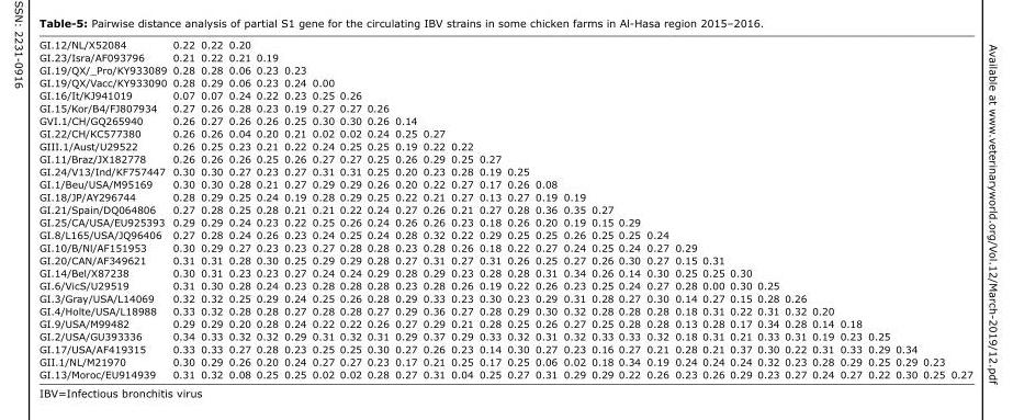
<table><tbody><tr><td>GI.12/NL/X52084</td><td>0.22</td><td>0.22</td><td>0.20</td><td></td><td></td><td></td><td></td><td></td><td></td><td></td><td></td><td></td><td></td><td></td><td></td><td></td><td></td><td></td><td></td><td></td><td></td><td></td><td></td><td></td><td></td><td></td><td></td><td></td><td></td></tr><tr><td>GI.23/Isra/AF093796</td><td>0.21</td><td>0.22</td><td>0.21</td><td>0.19</td><td></td><td></td><td></td><td></td><td></td><td></td><td></td><td></td><td></td><td></td><td></td><td></td><td></td><td></td><td></td><td></td><td></td><td></td><td></td><td></td><td></td><td></td><td></td><td></td><td></td></tr><tr><td>GI.19/QX/_Pro/KY933089</td><td>0.28</td><td>0.28</td><td>0.06</td><td>0.23</td><td>0.23</td><td></td><td></td><td></td><td></td><td></td><td></td><td></td><td></td><td></td><td></td><td></td><td></td><td></td><td></td><td></td><td></td><td></td><td></td><td></td><td></td><td></td><td></td><td></td><td></td></tr><tr><td>GI.19/QX/Vacc/KY933090</td><td>0.28</td><td>0.29</td><td>0.06</td><td>0.23</td><td>0.24</td><td>0.00</td><td></td><td></td><td></td><td></td><td></td><td></td><td></td><td></td><td></td><td></td><td></td><td></td><td></td><td></td><td></td><td></td><td></td><td></td><td></td><td></td><td></td><td></td><td></td></tr><tr><td>GI.16/It/KJ941019</td><td>0.07</td><td>0.07</td><td>0.24</td><td>0.22</td><td>0.23</td><td>0.25</td><td>0.26</td><td></td><td></td><td></td><td></td><td></td><td></td><td></td><td></td><td></td><td></td><td></td><td></td><td></td><td></td><td></td><td></td><td></td><td></td><td></td><td></td><td></td><td></td></tr><tr><td>GI.15/Kor/B4/FJ807934</td><td>0.27</td><td>0.26</td><td>0.28</td><td>0.23</td><td>0.19</td><td>0.27</td><td>0.27</td><td>0.26</td><td></td><td></td><td></td><td></td><td></td><td></td><td></td><td></td><td></td><td></td><td></td><td></td><td></td><td></td><td></td><td></td><td></td><td></td><td></td><td></td><td></td></tr><tr><td>GVI.1/CH/GQ265940</td><td>0.26</td><td>0.27</td><td>0.26</td><td>0.26</td><td>0.25</td><td>0.30</td><td>0.30</td><td>0.26</td><td>0.14</td><td></td><td></td><td></td><td></td><td></td><td></td><td></td><td></td><td></td><td></td><td></td><td></td><td></td><td></td><td></td><td></td><td></td><td></td><td></td><td></td></tr><tr><td>GI.22/CH/KC577380</td><td>0.26</td><td>0.26</td><td>0.04</td><td>0.20</td><td>0.21</td><td>0.02</td><td>0.02</td><td>0.24</td><td>0.25</td><td>0.27</td><td></td><td></td><td></td><td></td><td></td><td></td><td></td><td></td><td></td><td></td><td></td><td></td><td></td><td></td><td></td><td></td><td></td><td></td><td></td></tr><tr><td>GIII.1/Aust/U29522</td><td>0.26</td><td>0.25</td><td>0.23</td><td>0.21</td><td>0.22</td><td>0.24</td><td>0.25</td><td>0.25</td><td>0.19</td><td>0.22</td><td>0.22</td><td></td><td></td><td></td><td></td><td></td><td></td><td></td><td></td><td></td><td></td><td></td><td></td><td></td><td></td><td></td><td></td><td></td><td></td></tr><tr><td>GI.11/Braz/JX182778</td><td>0.26</td><td>0.26</td><td>0.26</td><td>0.25</td><td>0.26</td><td>0.27</td><td>0.27</td><td>0.25</td><td>0.26</td><td>0.29</td><td>0.25</td><td>0.27</td><td></td><td></td><td></td><td></td><td></td><td></td><td></td><td></td><td></td><td></td><td></td><td></td><td></td><td></td><td></td><td></td><td></td></tr><tr><td>GI.24/V13/Ind/KF757447</td><td>0.30</td><td>0.30</td><td>0.27</td><td>0.23</td><td>0.27</td><td>0.31</td><td>0.31</td><td>0.25</td><td>0.20</td><td>0.23</td><td>0.28</td><td>0.19</td><td>0.25</td><td></td><td></td><td></td><td></td><td></td><td></td><td></td><td></td><td></td><td></td><td></td><td></td><td></td><td></td><td></td><td></td></tr><tr><td>GI.1/Beu/USA/M95169</td><td>0.30</td><td>0.30</td><td>0.28</td><td>0.21</td><td>0.27</td><td>0.29</td><td>0.29</td><td>0.26</td><td>0.20</td><td>0.22</td><td>0.27</td><td>0.17</td><td>0.26</td><td>0.08</td><td></td><td></td><td></td><td></td><td></td><td></td><td></td><td></td><td></td><td></td><td></td><td></td><td></td><td></td><td></td></tr><tr><td>GI.18/JP/AY296744</td><td>0.28</td><td>0.29</td><td>0.25</td><td>0.24</td><td>0.19</td><td>0.28</td><td>0.29</td><td>0.25</td><td>0.22</td><td>0.21</td><td>0.27</td><td>0.13</td><td>0.27</td><td>0.19</td><td>0.19</td><td></td><td></td><td></td><td></td><td></td><td></td><td></td><td></td><td></td><td></td><td></td><td></td><td></td><td></td></tr><tr><td>GI.21/Spain/DQ064806</td><td>0.27</td><td>0.28</td><td>0.25</td><td>0.28</td><td>0.21</td><td>0.21</td><td>0.22</td><td>0.24</td><td>0.27</td><td>0.26</td><td>0.21</td><td>0.27</td><td>0.28</td><td>0.36</td><td>0.35</td><td>0.27</td><td></td><td></td><td></td><td></td><td></td><td></td><td></td><td></td><td></td><td></td><td></td><td></td><td></td></tr><tr><td>GI.25/CA/USA/EU925393</td><td>0.29</td><td>0.29</td><td>0.24</td><td>0.23</td><td>0.22</td><td>0.25</td><td>0.26</td><td>0.24</td><td>0.26</td><td>0.26</td><td>0.23</td><td>0.18</td><td>0.26</td><td>0.20</td><td>0.19</td><td>0.15</td><td>0.29</td><td></td><td></td><td></td><td></td><td></td><td></td><td></td><td></td><td></td><td></td><td></td><td></td></tr><tr><td>GI.8/L165/USA/JQ96406</td><td>0.27</td><td>0.28</td><td>0.24</td><td>0.26</td><td>0.23</td><td>0.24</td><td>0.25</td><td>0.24</td><td>0.28</td><td>0.32</td><td>0.22</td><td>0.29</td><td>0.25</td><td>0.25</td><td>0.26</td><td>0.25</td><td>0.25</td><td>0.24</td><td></td><td></td><td></td><td></td><td></td><td></td><td></td><td></td><td></td><td></td><td></td></tr><tr><td>GI.10/B/Nl/AF151953</td><td>0.30</td><td>0.29</td><td>0.27</td><td>0.23</td><td>0.23</td><td>0.27</td><td>0.28</td><td>0.28</td><td>0.23</td><td>0.28</td><td>0.26</td><td>0.18</td><td>0.22</td><td>0.27</td><td>0.24</td><td>0.25</td><td>0.24</td><td>0.27</td><td>0.29</td><td></td><td></td><td></td><td></td><td></td><td></td><td></td><td></td><td></td><td></td></tr><tr><td>GI.20/CAN/AF349621</td><td>0.31</td><td>0.31</td><td>0.28</td><td>0.30</td><td>0.25</td><td>0.29</td><td>0.29</td><td>0.28</td><td>0.27</td><td>0.31</td><td>0.27</td><td>0.31</td><td>0.26</td><td>0.25</td><td>0.27</td><td>0.26</td><td>0.30</td><td>0.27</td><td>0.15</td><td>0.31</td><td></td><td></td><td></td><td></td><td></td><td></td><td></td><td></td><td></td></tr><tr><td>GI.14/Bel/X87238</td><td>0.30</td><td>0.31</td><td>0.23</td><td>0.23</td><td>0.27</td><td>0.24</td><td>0.24</td><td>0.29</td><td>0.28</td><td>0.29</td><td>0.23</td><td>0.28</td><td>0.28</td><td>0.31</td><td>0.34</td><td>0.26</td><td>0.14</td><td>0.30</td><td>0.25</td><td>0.25</td><td>0.30</td><td></td><td></td><td></td><td></td><td></td><td></td><td></td><td></td></tr><tr><td>GI.6/VicS/U29519</td><td>0.31</td><td>0.30</td><td>0.28</td><td>0.24</td><td>0.23</td><td>0.28</td><td>0.28</td><td>0.28</td><td>0.23</td><td>0.28</td><td>0.26</td><td>0.19</td><td>0.22</td><td>0.26</td><td>0.23</td><td>0.25</td><td>0.24</td><td>0.27</td><td>0.28</td><td>0.00</td><td>0.30</td><td>0.25</td><td></td><td></td><td></td><td></td><td></td><td></td><td></td></tr><tr><td>GI.3/Gray/USA/L14069</td><td>0.32</td><td>0.32</td><td>0.25</td><td>0.29</td><td>0.24</td><td>0.25</td><td>0.26</td><td>0.28</td><td>0.29</td><td>0.33</td><td>0.23</td><td>0.30</td><td>0.23</td><td>0.29</td><td>0.31</td><td>0.28</td><td>0.27</td><td>0.30</td><td>0.14</td><td>0.27</td><td>0.15</td><td>0.28</td><td>0.26</td><td></td><td></td><td></td><td></td><td></td><td></td></tr><tr><td>GI.4/Holte/USA/L18988</td><td>0.33</td><td>0.32</td><td>0.28</td><td>0.28</td><td>0.27</td><td>0.28</td><td>0.28</td><td>0.27</td><td>0.29</td><td>0.36</td><td>0.27</td><td>0.28</td><td>0.29</td><td>0.30</td><td>0.32</td><td>0.28</td><td>0.28</td><td>0.28</td><td>0.18</td><td>0.31</td><td>0.22</td><td>0.31</td><td>0.32</td><td>0.20</td><td></td><td></td><td></td><td></td><td></td></tr><tr><td>GI.9/USA/M99482</td><td>0.29</td><td>0.29</td><td>0.20</td><td>0.28</td><td>0.24</td><td>0.22</td><td>0.22</td><td>0.26</td><td>0.27</td><td>0.29</td><td>0.21</td><td>0.28</td><td>0.25</td><td>0.26</td><td>0.27</td><td>0.25</td><td>0.28</td><td>0.28</td><td>0.13</td><td>0.28</td><td>0.17</td><td>0.34</td><td>0.28</td><td>0.14</td><td>0.18</td><td></td><td></td><td></td><td></td></tr><tr><td>GI.2/USA/GU393336</td><td>0.34</td><td>0.33</td><td>0.32</td><td>0.32</td><td>0.29</td><td>0.31</td><td>0.32</td><td>0.31</td><td>0.29</td><td>0.37</td><td>0.29</td><td>0.33</td><td>0.32</td><td>0.31</td><td>0.32</td><td>0.33</td><td>0.33</td><td>0.32</td><td>0.18</td><td>0.31</td><td>0.21</td><td>0.33</td><td>0.31</td><td>0.19</td><td>0.23</td><td>0.25</td><td></td><td></td><td></td></tr><tr><td>GI.17/USA/AF419315</td><td>0.33</td><td>0.33</td><td>0.27</td><td>0.28</td><td>0.23</td><td>0.25</td><td>0.25</td><td>0.30</td><td>0.27</td><td>0.26</td><td>0.23</td><td>0.14</td><td>0.30</td><td>0.27</td><td>0.23</td><td>0.16</td><td>0.27</td><td>0.21</td><td>0.28</td><td>0.21</td><td>0.37</td><td>0.30</td><td>0.22</td><td>0.31</td><td>0.33</td><td>0.29</td><td>0.34</td><td></td><td></td></tr><tr><td>GII.1/NL/M21970</td><td>0.30</td><td>0.29</td><td>0.26</td><td>0.20</td><td>0.24</td><td>0.27</td><td>0.27</td><td>0.23</td><td>0.17</td><td>0.21</td><td>0.25</td><td>0.17</td><td>0.25</td><td>0.06</td><td>0.02</td><td>0.18</td><td>0.34</td><td>0.19</td><td>0.24</td><td>0.24</td><td>0.24</td><td>0.32</td><td>0.23</td><td>0.28</td><td>0.29</td><td>0.25</td><td>0.29</td><td>0.23</td><td></td></tr><tr><td>GI.13/Moroc/EU914939</td><td>0.31</td><td>0.32</td><td>0.08</td><td>0.25</td><td>0.25</td><td>0.02</td><td>0.02</td><td>0.28</td><td>0.27</td><td>0.31</td><td>0.04</td><td>0.25</td><td>0.27</td><td>0.31</td><td>0.29</td><td>0.29</td><td>0.22</td><td>0.26</td><td>0.23</td><td>0.26</td><td>0.29</td><td>0.23</td><td>0.27</td><td>0.24</td><td>0.27</td><td>0.22</td><td>0.30</td><td>0.25</td><td>0.27</td></tr></tbody></table>